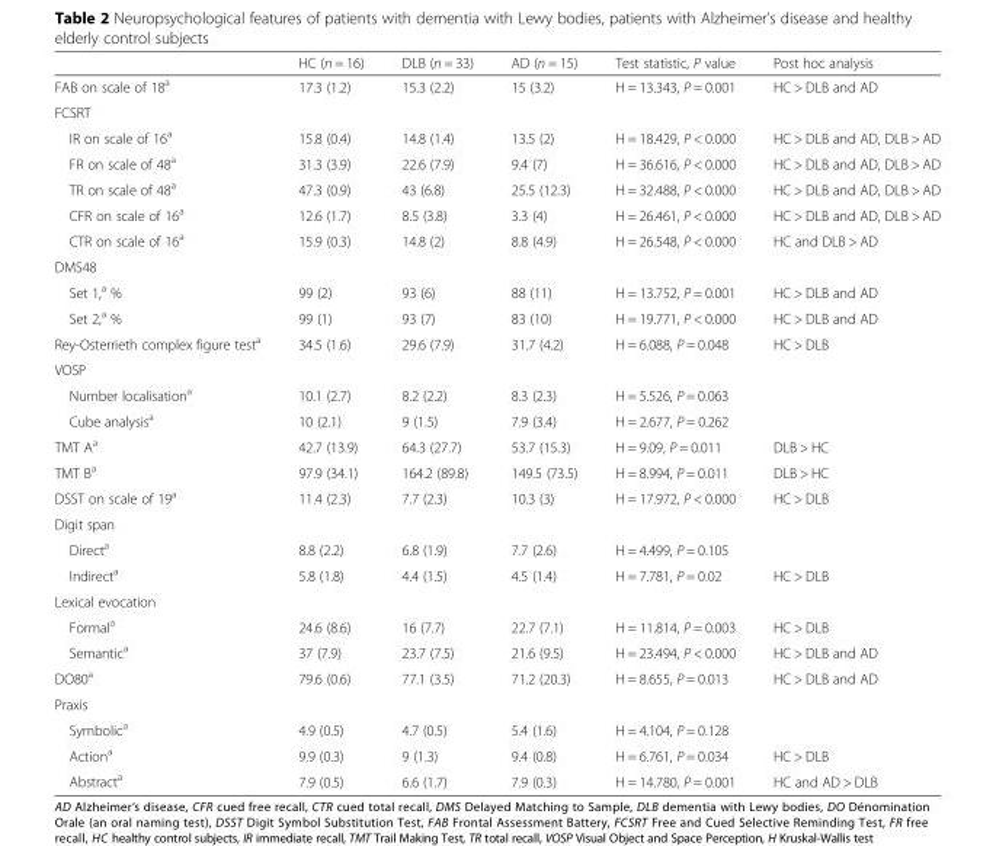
<table><thead><tr><td></td><td>HC (n = 16)</td><td>DLB (n = 33)</td><td>AD (n = 15)</td><td>Test statistic, P value</td><td>Post hoc analysis</td></tr></thead><tbody><tr><td>FAB on scale of 18<sup>a</sup></td><td>17.3 (1.2)</td><td>15.3 (2.2)</td><td>15 (3.2)</td><td>H = 13.343, P = 0.001</td><td>HC &gt; DLB and AD</td></tr><tr><td colspan="6">FCSRT</td></tr><tr><td>IR on scale of 16<sup>a</sup></td><td>15.8 (0.4)</td><td>14.8 (1.4)</td><td>13.5 (2)</td><td>H = 18.429, P &lt; 0.000</td><td>HC &gt; DLB and AD, DLB &gt; AD</td></tr><tr><td>FR on scale of 48<sup>a</sup></td><td>31.3 (3.9)</td><td>22.6 (7.9)</td><td>9.4 (7)</td><td>H = 36.616, P &lt; 0.000</td><td>HC &gt; DLB and AD, DLB &gt; AD</td></tr><tr><td>TR on scale of 48<sup>a</sup></td><td>47.3 (0.9)</td><td>43 (6.8)</td><td>25.5 (12.3)</td><td>H = 32.488, P &lt; 0.000</td><td>HC &gt; DLB and AD, DLB &gt; AD</td></tr><tr><td>CFR on scale of 16<sup>a</sup></td><td>12.6 (1.7)</td><td>8.5 (3.8)</td><td>3.3 (4)</td><td>H = 26.461, P &lt; 0.000</td><td>HC &gt; DLB and AD, DLB &gt; AD</td></tr><tr><td>CTR on scale of 16<sup>a</sup></td><td>15.9 (0.3)</td><td>14.8 (2)</td><td>8.8 (4.9)</td><td>H = 26.548, P &lt; 0.000</td><td>HC and DLB &gt; AD</td></tr><tr><td colspan="6">DMS48</td></tr><tr><td>Set 1,<sup>a</sup> %</td><td>99 (2)</td><td>93 (6)</td><td>88 (11)</td><td>H = 13.752, P = 0.001</td><td>HC &gt; DLB and AD</td></tr><tr><td>Set 2,<sup>a</sup> %</td><td>99 (1)</td><td>93 (7)</td><td>83 (10)</td><td>H = 19.771, P &lt; 0.000</td><td>HC &gt; DLB and AD</td></tr><tr><td>Rey-Osterrieth complex figure test<sup>a</sup></td><td>34.5 (1.6)</td><td>29.6 (7.9)</td><td>31.7 (4.2)</td><td>H = 6.088, P = 0.048</td><td>HC &gt; DLB</td></tr><tr><td colspan="6">VOSP</td></tr><tr><td>Number localisation<sup>a</sup></td><td>10.1 (2.7)</td><td>8.2 (2.2)</td><td>8.3 (2.3)</td><td>H = 5.526, P = 0.063</td><td></td></tr><tr><td>Cube analysis<sup>a</sup></td><td>10 (2.1)</td><td>9 (1.5)</td><td>7.9 (3.4)</td><td>H = 2.677, P = 0.262</td><td></td></tr><tr><td>TMT A<sup>a</sup></td><td>42.7 (13.9)</td><td>64.3 (27.7)</td><td>53.7 (15.3)</td><td>H = 9.09, P = 0.011</td><td>DLB &gt; HC</td></tr><tr><td>TMT B<sup>a</sup></td><td>97.9 (34.1)</td><td>164.2 (89.8)</td><td>149.5 (73.5)</td><td>H = 8.994, P = 0.011</td><td>DLB &gt; HC</td></tr><tr><td>DSST on scale of 19<sup>a</sup></td><td>11.4 (2.3)</td><td>7.7 (2.3)</td><td>10.3 (3)</td><td>H = 17.972, P &lt; 0.000</td><td>HC &gt; DLB</td></tr><tr><td colspan="6">Digit span</td></tr><tr><td>Direct<sup>a</sup></td><td>8.8 (2.2)</td><td>6.8 (1.9)</td><td>7.7 (2.6)</td><td>H = 4.499, P = 0.105</td><td></td></tr><tr><td>Indirect<sup>a</sup></td><td>5.8 (1.8)</td><td>4.4 (1.5)</td><td>4.5 (1.4)</td><td>H = 7.781, P = 0.02</td><td>HC &gt; DLB</td></tr><tr><td colspan="6">Lexical evocation</td></tr><tr><td>Formal<sup>a</sup></td><td>24.6 (8.6)</td><td>16 (7.7)</td><td>22.7 (7.1)</td><td>H = 11.814, P = 0.003</td><td>HC &gt; DLB</td></tr><tr><td>Semantic<sup>a</sup></td><td>37 (7.9)</td><td>23.7 (7.5)</td><td>21.6 (9.5)</td><td>H = 23.494, P &lt; 0.000</td><td>HC &gt; DLB and AD</td></tr><tr><td>DO80<sup>a</sup></td><td>79.6 (0.6)</td><td>77.1 (3.5)</td><td>71.2 (20.3)</td><td>H = 8.655, P = 0.013</td><td>HC &gt; DLB and AD</td></tr><tr><td colspan="6">Praxis</td></tr><tr><td>Symbolic<sup>a</sup></td><td>4.9 (0.5)</td><td>4.7 (0.5)</td><td>5.4 (1.6)</td><td>H = 4.104, P = 0.128</td><td></td></tr><tr><td>Action<sup>a</sup></td><td>9.9 (0.3)</td><td>9 (1.3)</td><td>9.4 (0.8)</td><td>H = 6.761, P = 0.034</td><td>HC &gt; DLB</td></tr><tr><td>Abstract<sup>a</sup></td><td>7.9 (0.5)</td><td>6.6 (1.7)</td><td>7.9 (0.3)</td><td>H = 14.780, P = 0.001</td><td>HC and AD &gt; DLB</td></tr></tbody></table>